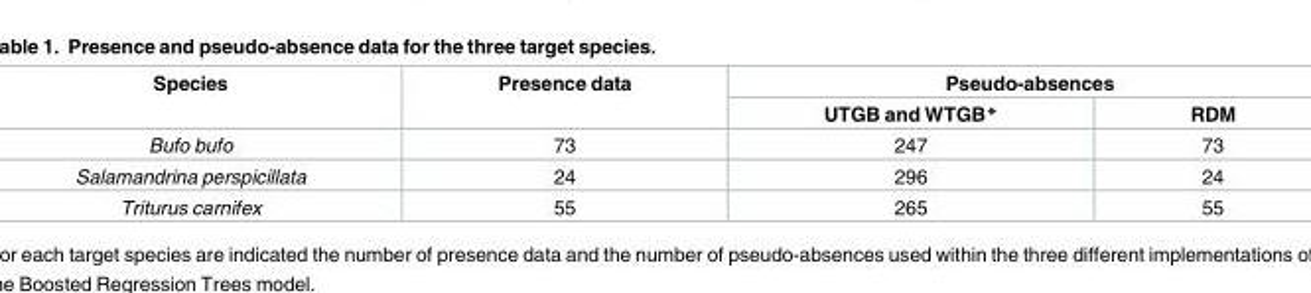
<table><thead><tr><td rowspan="2">Species</td><td rowspan="2">Presence data</td><td colspan="2">Pseudo-absences</td></tr><tr><td>UTGB and WTGB*</td><td>RDM</td></tr></thead><tbody><tr><td>Bufo bufo</td><td>73</td><td>247</td><td>73</td></tr><tr><td>Salamandrina perspicillata</td><td>24</td><td>296</td><td>24</td></tr><tr><td>Triturus carnifex</td><td>55</td><td>265</td><td>55</td></tr></tbody></table>